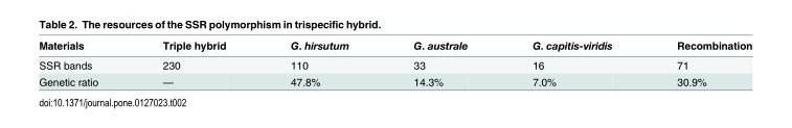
<table><thead><tr><td>Materials</td><td>Triple hybrid</td><td>G. hirsutum</td><td>G. australe</td><td>G. capitis-viridis</td><td>Recombination</td></tr></thead><tbody><tr><td>SSR bands</td><td>230</td><td>110</td><td>33</td><td>16</td><td>71</td></tr><tr><td>Genetic ratio</td><td>—</td><td>47.8%</td><td>14.3%</td><td>7.0%</td><td>30.9%</td></tr></tbody></table>